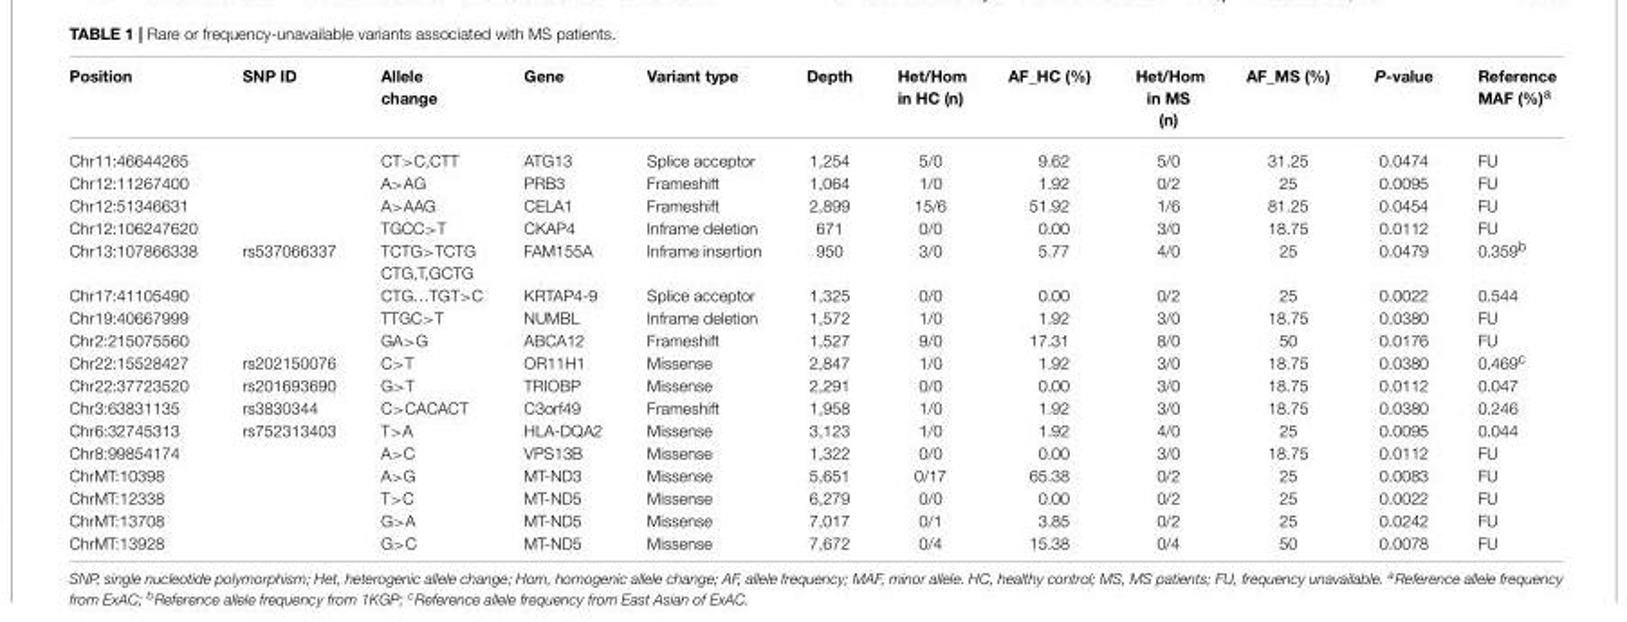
<table><thead><tr><td>Position</td><td>SNP ID</td><td>Allele change</td><td>Gene</td><td>Variant type</td><td>Depth</td><td>Het/Hom in HC (n)</td><td>AF_HC (%)</td><td>Het/Hom in MS (n)</td><td>AF_MS (%)</td><td>P-value</td><td>Reference MAF (%)<sup>a</sup></td></tr></thead><tbody><tr><td>Chr11:46644265</td><td></td><td>CT&gt;C,CTT</td><td>ATG13</td><td>Splice acceptor</td><td>1,254</td><td>5/0</td><td>9.62</td><td>5/0</td><td>31.25</td><td>0.0474</td><td>FU</td></tr><tr><td>Chr12:11267400</td><td></td><td>A&gt;AG</td><td>PRB3</td><td>Frameshift</td><td>1,064</td><td>1/0</td><td>1.92</td><td>0/2</td><td>25</td><td>0.0095</td><td>FU</td></tr><tr><td>Chr12:51346631</td><td></td><td>A&gt;AAG</td><td>CELA1</td><td>Frameshift</td><td>2,899</td><td>15/6</td><td>51.92</td><td>1/6</td><td>81.25</td><td>0.0454</td><td>FU</td></tr><tr><td>Chr12:106247620</td><td></td><td>TGCC&gt;T</td><td>CKAP4</td><td>Inframe deletion</td><td>671</td><td>0/0</td><td>0.00</td><td>3/0</td><td>18.75</td><td>0.0112</td><td>FU</td></tr><tr><td>Chr13:107866338</td><td>rs537066337</td><td>TCTG&gt;TCTG CTG,T,GCTG</td><td>FAM155A</td><td>Inframe insertion</td><td>950</td><td>3/0</td><td>5.77</td><td>4/0</td><td>25</td><td>0.0479</td><td>0.359<sup>b</sup></td></tr><tr><td>Chr17:41105490</td><td></td><td>CTG…TGT&gt;C</td><td>KRTAP4-9</td><td>Splice acceptor</td><td>1,325</td><td>0/0</td><td>0.00</td><td>0/2</td><td>25</td><td>0.0022</td><td>0.544</td></tr><tr><td>Chr19:40667999</td><td></td><td>TTGC&gt;T</td><td>NUMBL</td><td>Inframe deletion</td><td>1,572</td><td>1/0</td><td>1.92</td><td>3/0</td><td>18.75</td><td>0.0380</td><td>FU</td></tr><tr><td>Chr2:215075560</td><td></td><td>GA&gt;G</td><td>ABCA12</td><td>Frameshift</td><td>1,527</td><td>9/0</td><td>17.31</td><td>8/0</td><td>50</td><td>0.0176</td><td>FU</td></tr><tr><td>Chr22:15528427</td><td>rs202150076</td><td>C&gt;T</td><td>OR11H1</td><td>Missense</td><td>2,847</td><td>1/0</td><td>1.92</td><td>3/0</td><td>18.75</td><td>0.0380</td><td>0.469<sup>c</sup></td></tr><tr><td>Chr22:37723520</td><td>rs201693690</td><td>G&gt;T</td><td>TRIOBP</td><td>Missense</td><td>2,291</td><td>0/0</td><td>0.00</td><td>3/0</td><td>18.75</td><td>0.0112</td><td>0.047</td></tr><tr><td>Chr3:63831135</td><td>rs3830344</td><td>C&gt;CACACT</td><td>C3orf49</td><td>Frameshift</td><td>1,958</td><td>1/0</td><td>1.92</td><td>3/0</td><td>18.75</td><td>0.0380</td><td>0.246</td></tr><tr><td>Chr6:32745313</td><td>rs752313403</td><td>T&gt;A</td><td>HLA-DQA2</td><td>Missense</td><td>3,123</td><td>1/0</td><td>1.92</td><td>4/0</td><td>25</td><td>0.0095</td><td>0.044</td></tr><tr><td>Chr8:99854174</td><td></td><td>A&gt;C</td><td>VPS13B</td><td>Missense</td><td>1,322</td><td>0/0</td><td>0.00</td><td>3/0</td><td>18.75</td><td>0.0112</td><td>FU</td></tr><tr><td>ChrMT:10398</td><td></td><td>A&gt;G</td><td>MT-ND3</td><td>Missense</td><td>5,651</td><td>0/17</td><td>65.38</td><td>0/2</td><td>25</td><td>0.0083</td><td>FU</td></tr><tr><td>ChrMT:12338</td><td></td><td>T&gt;C</td><td>MT-ND5</td><td>Missense</td><td>6,279</td><td>0/0</td><td>0.00</td><td>0/2</td><td>25</td><td>0.0022</td><td>FU</td></tr><tr><td>ChrMT:13708</td><td></td><td>G&gt;A</td><td>MT-ND5</td><td>Missense</td><td>7,017</td><td>0/1</td><td>3.85</td><td>0/2</td><td>25</td><td>0.0242</td><td>FU</td></tr><tr><td>ChrMT:13928</td><td></td><td>G&gt;C</td><td>MT-ND5</td><td>Missense</td><td>7,672</td><td>0/4</td><td>15.38</td><td>0/4</td><td>50</td><td>0.0078</td><td>FU</td></tr></tbody></table>